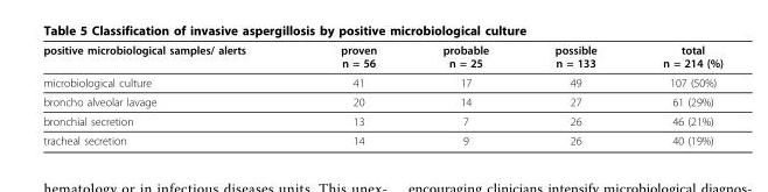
<table><thead><tr><td>positive microbiological samples/ alerts</td><td>proven n = 56</td><td>probable n = 25</td><td>possible n = 133</td><td>total n = 214 (%)</td></tr></thead><tbody><tr><td>microbiological culture</td><td>41</td><td>17</td><td>49</td><td>107 (50%)</td></tr><tr><td>broncho alveolar lavage</td><td>20</td><td>14</td><td>27</td><td>61 (29%)</td></tr><tr><td>bronchial secretion</td><td>13</td><td>7</td><td>26</td><td>46 (21%)</td></tr><tr><td>tracheal secretion</td><td>14</td><td>9</td><td>26</td><td>40 (19%)</td></tr></tbody></table>